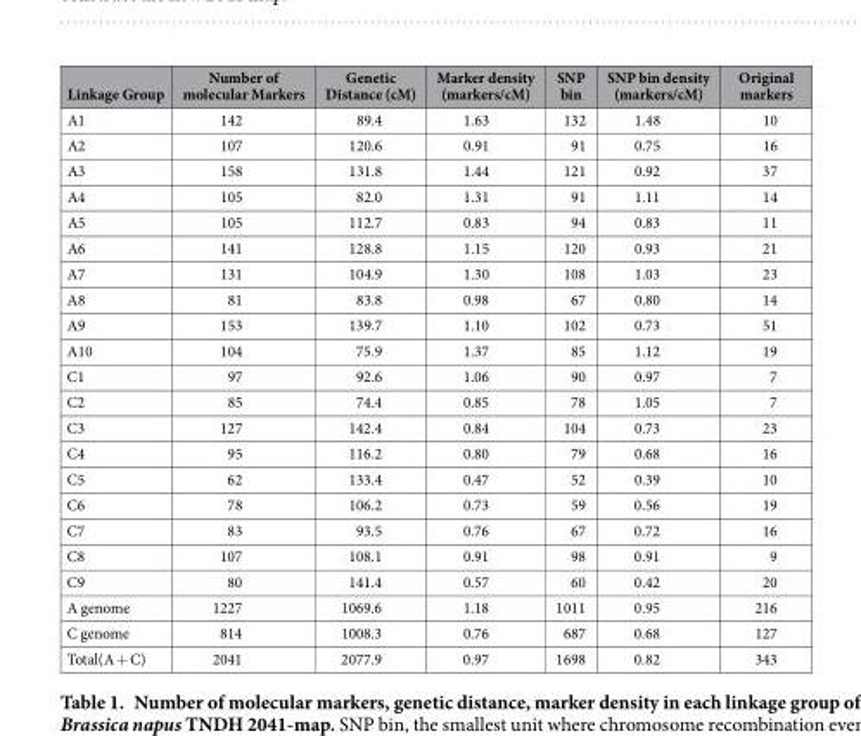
<table><thead><tr><td>Linkage Group</td><td>Number of molecular Markers</td><td>Genetic Distance (cM)</td><td>Marker density (markers/cM)</td><td>SNP bin</td><td>SNP bin density (markers/cM)</td><td>Original markers</td></tr></thead><tbody><tr><td>A1</td><td>142</td><td>89.4</td><td>1.63</td><td>132</td><td>1.48</td><td>10</td></tr><tr><td>A2</td><td>107</td><td>120.6</td><td>0.91</td><td>91</td><td>0.75</td><td>16</td></tr><tr><td>A3</td><td>158</td><td>131.8</td><td>1.44</td><td>121</td><td>0.92</td><td>37</td></tr><tr><td>A4</td><td>105</td><td>82.0</td><td>1.31</td><td>91</td><td>1.11</td><td>14</td></tr><tr><td>A5</td><td>105</td><td>112.7</td><td>0.83</td><td>94</td><td>0.83</td><td>11</td></tr><tr><td>A6</td><td>141</td><td>128.8</td><td>1.15</td><td>120</td><td>0.93</td><td>21</td></tr><tr><td>A7</td><td>131</td><td>104.9</td><td>1.30</td><td>108</td><td>1.03</td><td>23</td></tr><tr><td>A8</td><td>81</td><td>83.8</td><td>0.98</td><td>67</td><td>0.80</td><td>14</td></tr><tr><td>A9</td><td>153</td><td>139.7</td><td>1.10</td><td>102</td><td>0.73</td><td>51</td></tr><tr><td>A10</td><td>104</td><td>75.9</td><td>1.37</td><td>85</td><td>1.12</td><td>19</td></tr><tr><td>C1</td><td>97</td><td>92.6</td><td>1.06</td><td>90</td><td>0.97</td><td>7</td></tr><tr><td>C2</td><td>85</td><td>74.4</td><td>0.85</td><td>78</td><td>1.05</td><td>7</td></tr><tr><td>C3</td><td>127</td><td>142.4</td><td>0.84</td><td>104</td><td>0.73</td><td>23</td></tr><tr><td>C4</td><td>95</td><td>116.2</td><td>0.80</td><td>79</td><td>0.68</td><td>16</td></tr><tr><td>C5</td><td>62</td><td>133.4</td><td>0.47</td><td>52</td><td>0.39</td><td>10</td></tr><tr><td>C6</td><td>78</td><td>106.2</td><td>0.73</td><td>59</td><td>0.56</td><td>19</td></tr><tr><td>C7</td><td>83</td><td>93.5</td><td>0.76</td><td>67</td><td>0.72</td><td>16</td></tr><tr><td>C8</td><td>107</td><td>108.1</td><td>0.91</td><td>98</td><td>0.91</td><td>9</td></tr><tr><td>C9</td><td>80</td><td>141.4</td><td>0.57</td><td>60</td><td>0.42</td><td>20</td></tr><tr><td>A genome</td><td>1227</td><td>1069.6</td><td>1.18</td><td>1011</td><td>0.95</td><td>216</td></tr><tr><td>C genome</td><td>814</td><td>1008.3</td><td>0.76</td><td>687</td><td>0.68</td><td>127</td></tr><tr><td>Total(A + C)</td><td>2041</td><td>2077.9</td><td>0.97</td><td>1698</td><td>0.82</td><td>343</td></tr></tbody></table>